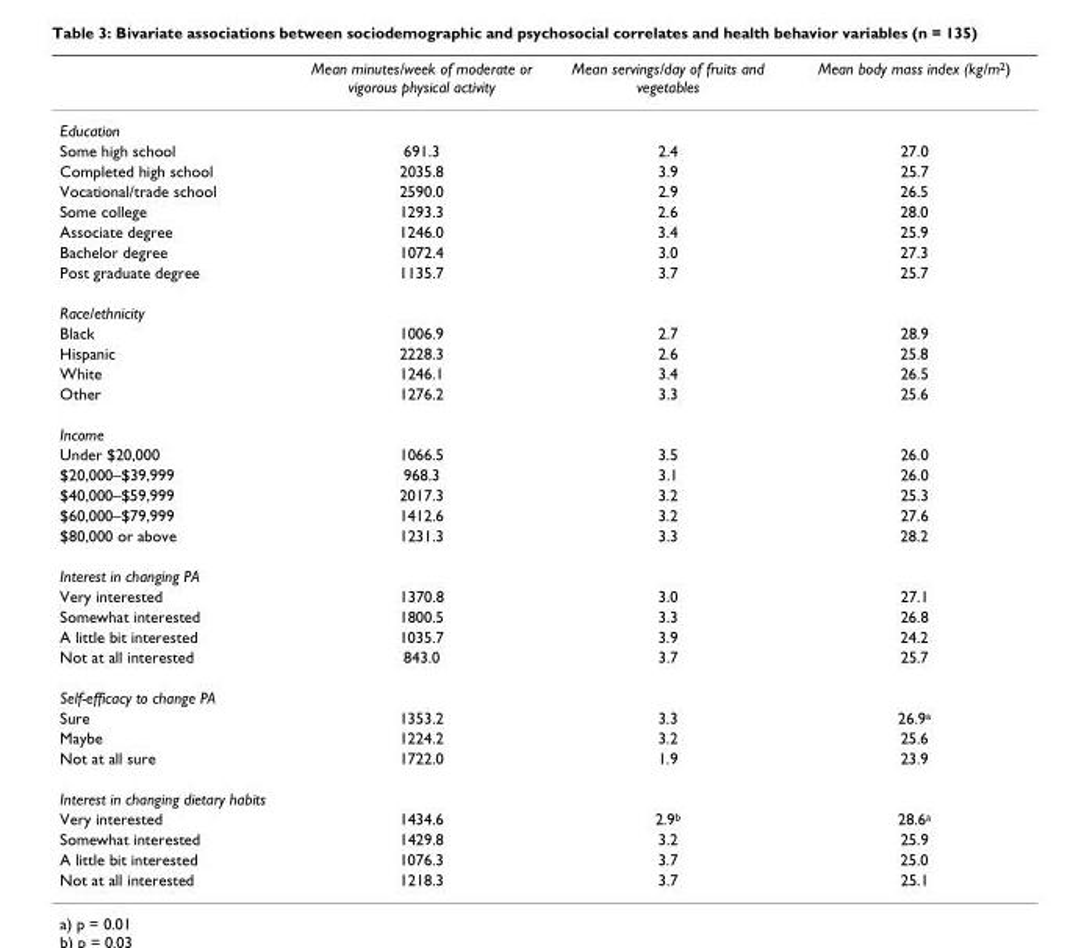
<table><thead><tr><td></td><td>Mean minutes/week of moderate or vigorous physical activity</td><td>Mean servings/day of fruits and vegetables</td><td>Mean body mass index (kg/m<sup>2</sup>)</td></tr></thead><tbody><tr><td colspan="4">Education</td></tr><tr><td>Some high school</td><td>691.3</td><td>2.4</td><td>27.0</td></tr><tr><td>Completed high school</td><td>2035.8</td><td>3.9</td><td>25.7</td></tr><tr><td>Vocational/trade school</td><td>2590.0</td><td>2.9</td><td>26.5</td></tr><tr><td>Some college</td><td>1293.3</td><td>2.6</td><td>28.0</td></tr><tr><td>Associate degree</td><td>1246.0</td><td>3.4</td><td>25.9</td></tr><tr><td>Bachelor degree</td><td>1072.4</td><td>3.0</td><td>27.3</td></tr><tr><td>Post graduate degree</td><td>1135.7</td><td>3.7</td><td>25.7</td></tr><tr><td colspan="4">Race/ethnicity</td></tr><tr><td>Black</td><td>1006.9</td><td>2.7</td><td>28.9</td></tr><tr><td>Hispanic</td><td>2228.3</td><td>2.6</td><td>25.8</td></tr><tr><td>White</td><td>1246.1</td><td>3.4</td><td>26.5</td></tr><tr><td>Other</td><td>1276.2</td><td>3.3</td><td>25.6</td></tr><tr><td colspan="4">Income</td></tr><tr><td>Under $20,000</td><td>1066.5</td><td>3.5</td><td>26.0</td></tr><tr><td>$20,000–$39,999</td><td>968.3</td><td>3.1</td><td>26.0</td></tr><tr><td>$40,000–$59,999</td><td>2017.3</td><td>3.2</td><td>25.3</td></tr><tr><td>$60,000–$79,999</td><td>1412.6</td><td>3.2</td><td>27.6</td></tr><tr><td>$80,000 or above</td><td>1231.3</td><td>3.3</td><td>28.2</td></tr><tr><td colspan="4">Interest in changing PA</td></tr><tr><td>Very interested</td><td>1370.8</td><td>3.0</td><td>27.1</td></tr><tr><td>Somewhat interested</td><td>1800.5</td><td>3.3</td><td>26.8</td></tr><tr><td>A little bit interested</td><td>1035.7</td><td>3.9</td><td>24.2</td></tr><tr><td>Not at all interested</td><td>843.0</td><td>3.7</td><td>25.7</td></tr><tr><td colspan="4">Self-efficacy to change PA</td></tr><tr><td>Sure</td><td>1353.2</td><td>3.3</td><td>26.9<sup>a</sup></td></tr><tr><td>Maybe</td><td>1224.2</td><td>3.2</td><td>25.6</td></tr><tr><td>Not at all sure</td><td>1722.0</td><td>1.9</td><td>23.9</td></tr><tr><td colspan="4">Interest in changing dietary habits</td></tr><tr><td>Very interested</td><td>1434.6</td><td>2.9<sup>b</sup></td><td>28.6<sup>a</sup></td></tr><tr><td>Somewhat interested</td><td>1429.8</td><td>3.2</td><td>25.9</td></tr><tr><td>A little bit interested</td><td>1076.3</td><td>3.7</td><td>25.0</td></tr><tr><td>Not at all interested</td><td>1218.3</td><td>3.7</td><td>25.1</td></tr></tbody></table>